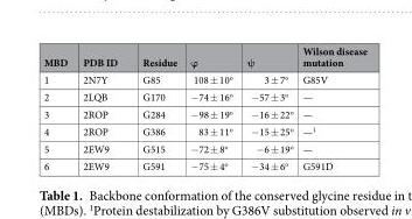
<table><thead><tr><td>MBD</td><td>PDB ID</td><td>Residue</td><td>ϕ</td><td>ψ</td><td>Wilson disease mutation</td></tr></thead><tbody><tr><td>1</td><td>2N7Y</td><td>G85</td><td>108 ± 10<sup>o</sup></td><td>3 ± 7<sup>o</sup></td><td>G85V</td></tr><tr><td>2</td><td>2LQB</td><td>G170</td><td>−74 ± 16<sup>o</sup></td><td>−57 ± 3<sup>o</sup></td><td>—</td></tr><tr><td>3</td><td>2ROP</td><td>G284</td><td>−98 ± 19<sup>o</sup></td><td>−16 ± 22<sup>o</sup></td><td>—</td></tr><tr><td>4</td><td>2ROP</td><td>G386</td><td>83 ± 11<sup>o</sup></td><td>−15 ± 25<sup>o</sup></td><td>—<sup>1</sup></td></tr><tr><td>5</td><td>2EW9</td><td>G515</td><td>−72 ± 8<sup>o</sup></td><td>−6 ± 19<sup>o</sup></td><td>—</td></tr><tr><td>6</td><td>2EW9</td><td>G591</td><td>−75 ± 4<sup>o</sup></td><td>−34 ± 6<sup>o</sup></td><td>G591D</td></tr></tbody></table>